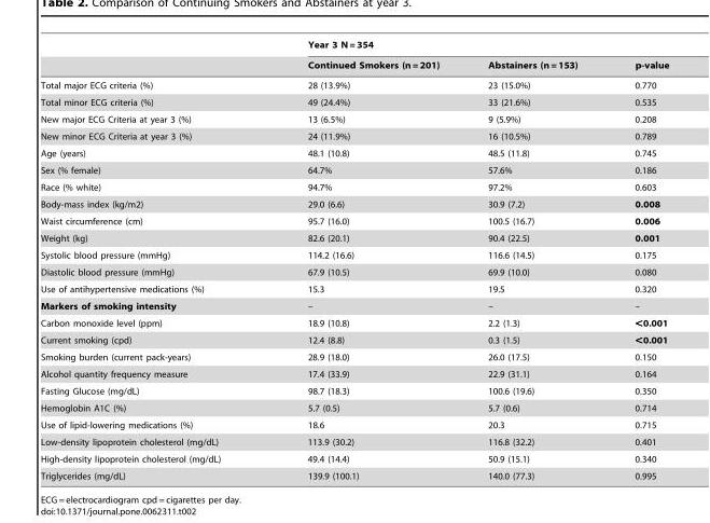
<table><thead><tr><td rowspan="2"></td><td colspan="3">Year 3 N = 354</td></tr><tr><td>Continued Smokers (n = 201)</td><td>Abstainers (n = 153)</td><td>p-value</td></tr></thead><tbody><tr><td>Total major ECG criteria (%)</td><td>28 (13.9%)</td><td>23 (15.0%)</td><td>0.770</td></tr><tr><td>Total minor ECG criteria (%)</td><td>49 (24.4%)</td><td>33 (21.6%)</td><td>0.535</td></tr><tr><td>New major ECG Criteria at year 3 (%)</td><td>13 (6.5%)</td><td>9 (5.9%)</td><td>0.208</td></tr><tr><td>New minor ECG Criteria at year 3 (%)</td><td>24 (11.9%)</td><td>16 (10.5%)</td><td>0.789</td></tr><tr><td>Age (years)</td><td>48.1 (10.8)</td><td>48.5 (11.8)</td><td>0.745</td></tr><tr><td>Sex (% female)</td><td>64.7%</td><td>57.6%</td><td>0.186</td></tr><tr><td>Race (% white)</td><td>94.7%</td><td>97.2%</td><td>0.603</td></tr><tr><td>Body-mass index (kg/m2)</td><td>29.0 (6.6)</td><td>30.9 (7.2)</td><td>0.008</td></tr><tr><td>Waist circumference (cm)</td><td>95.7 (16.0)</td><td>100.5 (16.7)</td><td>0.006</td></tr><tr><td>Weight (kg)</td><td>82.6 (20.1)</td><td>90.4 (22.5)</td><td>0.001</td></tr><tr><td>Systolic blood pressure (mmHg)</td><td>114.2 (16.6)</td><td>116.6 (14.5)</td><td>0.175</td></tr><tr><td>Diastolic blood pressure (mmHg)</td><td>67.9 (10.5)</td><td>69.9 (10.0)</td><td>0.080</td></tr><tr><td>Use of antihypertensive medications (%)</td><td>15.3</td><td>19.5</td><td>0.320</td></tr><tr><td>Markers of smoking intensity</td><td>–</td><td>–</td><td>–</td></tr><tr><td>Carbon monoxide level (ppm)</td><td>18.9 (10.8)</td><td>2.2 (1.3)</td><td>&lt;0.001</td></tr><tr><td>Current smoking (cpd)</td><td>12.4 (8.8)</td><td>0.3 (1.5)</td><td>&lt;0.001</td></tr><tr><td>Smoking burden (current pack-years)</td><td>28.9 (18.0)</td><td>26.0 (17.5)</td><td>0.150</td></tr><tr><td>Alcohol quantity frequency measure</td><td>17.4 (33.9)</td><td>22.9 (31.1)</td><td>0.164</td></tr><tr><td>Fasting Glucose (mg/dL)</td><td>98.7 (18.3)</td><td>100.6 (19.6)</td><td>0.350</td></tr><tr><td>Hemoglobin A1C (%)</td><td>5.7 (0.5)</td><td>5.7 (0.6)</td><td>0.714</td></tr><tr><td>Use of lipid-lowering medications (%)</td><td>18.6</td><td>20.3</td><td>0.715</td></tr><tr><td>Low-density lipoprotein cholesterol (mg/dL)</td><td>113.9 (30.2)</td><td>116.8 (32.2)</td><td>0.401</td></tr><tr><td>High-density lipoprotein cholesterol (mg/dL)</td><td>49.4 (14.4)</td><td>50.9 (15.1)</td><td>0.340</td></tr><tr><td>Triglycerides (mg/dL)</td><td>139.9 (100.1)</td><td>140.0 (77.3)</td><td>0.995</td></tr></tbody></table>